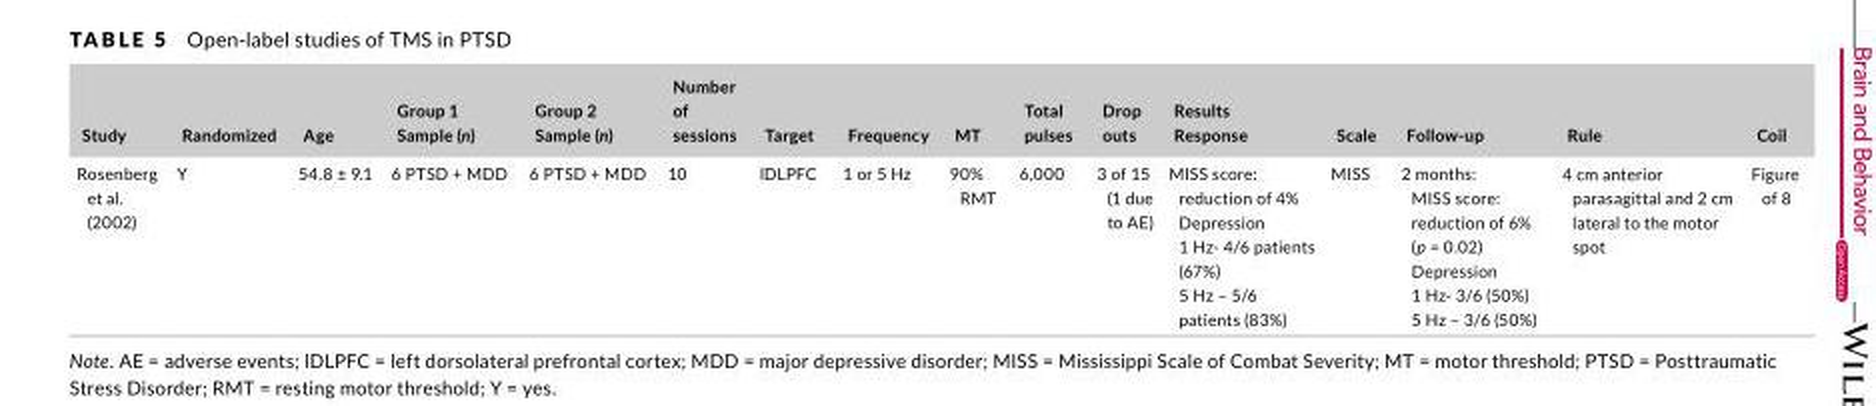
<table><thead><tr><td>Study</td><td>Randomized</td><td>Age</td><td>Group 1 Sample (n)</td><td>Group 2 Sample (n)</td><td>Number of sessions</td><td>Target</td><td>Frequency</td><td>MT</td><td>Total pulses</td><td>Drop outs</td><td>Results Response</td><td>Scale</td><td>Follow‐up</td><td>Rule</td><td>Coil</td></tr></thead><tbody><tr><td>Rosenberg et al. (2002)</td><td>Y</td><td>54.8 ± 9.1</td><td>6 PTSD + MDD</td><td>6 PTSD + MDD</td><td>10</td><td>lDLPFC</td><td>1 or 5 Hz</td><td>90% RMT</td><td>6,000</td><td>3 of 15 (1 due to AE)</td><td>MISS score: reduction of 4% Depression 1 Hz‐ 4/6 patients (67%) 5 Hz – 5/6 patients (83%)</td><td>MISS</td><td>2 months: MISS score: reduction of 6% (p = 0.02) Depression 1 Hz‐ 3/6 (50%) 5 Hz – 3/6 (50%)</td><td>4 cm anterior parasagittal and 2 cm lateral to the motor spot</td><td>Figure of 8</td></tr></tbody></table>